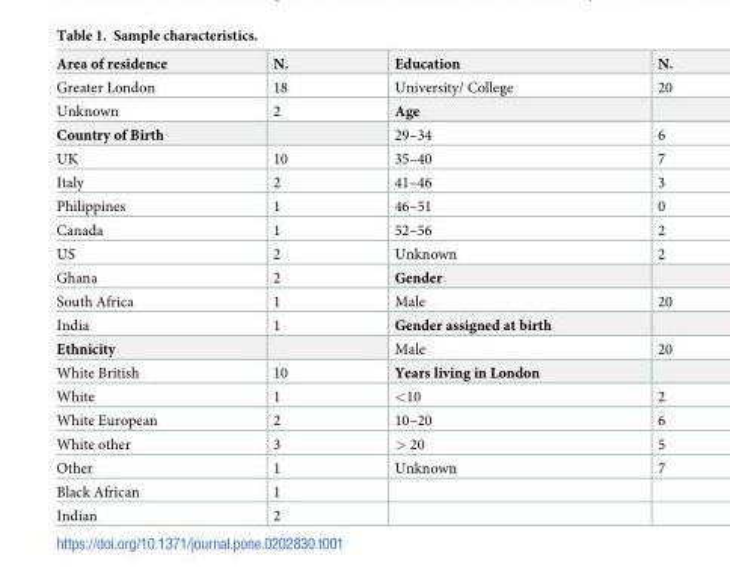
<table><tbody><tr><td>Area of residence</td><td>N.</td><td>Education</td><td>N.</td></tr><tr><td>Greater London</td><td>18</td><td>University/ College</td><td>20</td></tr><tr><td>Unknown</td><td>2</td><td>Age</td><td></td></tr><tr><td>Country of Birth</td><td></td><td>29–34</td><td>6</td></tr><tr><td>UK</td><td>10</td><td>35–40</td><td>7</td></tr><tr><td>Italy</td><td>2</td><td>41–46</td><td>3</td></tr><tr><td>Philippines</td><td>1</td><td>46–51</td><td>0</td></tr><tr><td>Canada</td><td>1</td><td>52–56</td><td>2</td></tr><tr><td>US</td><td>2</td><td>Unknown</td><td>2</td></tr><tr><td>Ghana</td><td>2</td><td>Gender</td><td></td></tr><tr><td>South Africa</td><td>1</td><td>Male</td><td>20</td></tr><tr><td>India</td><td>1</td><td>Gender assigned at birth</td><td></td></tr><tr><td>Ethnicity</td><td></td><td>Male</td><td>20</td></tr><tr><td>White British</td><td>10</td><td>Years living in London</td><td></td></tr><tr><td>White</td><td>1</td><td>&lt;10</td><td>2</td></tr><tr><td>White European</td><td>2</td><td>10–20</td><td>6</td></tr><tr><td>White other</td><td>3</td><td>&gt; 20</td><td>5</td></tr><tr><td>Other</td><td>1</td><td>Unknown</td><td>7</td></tr><tr><td>Black African</td><td>1</td><td></td><td></td></tr><tr><td>Indian</td><td>2</td><td></td><td></td></tr></tbody></table>